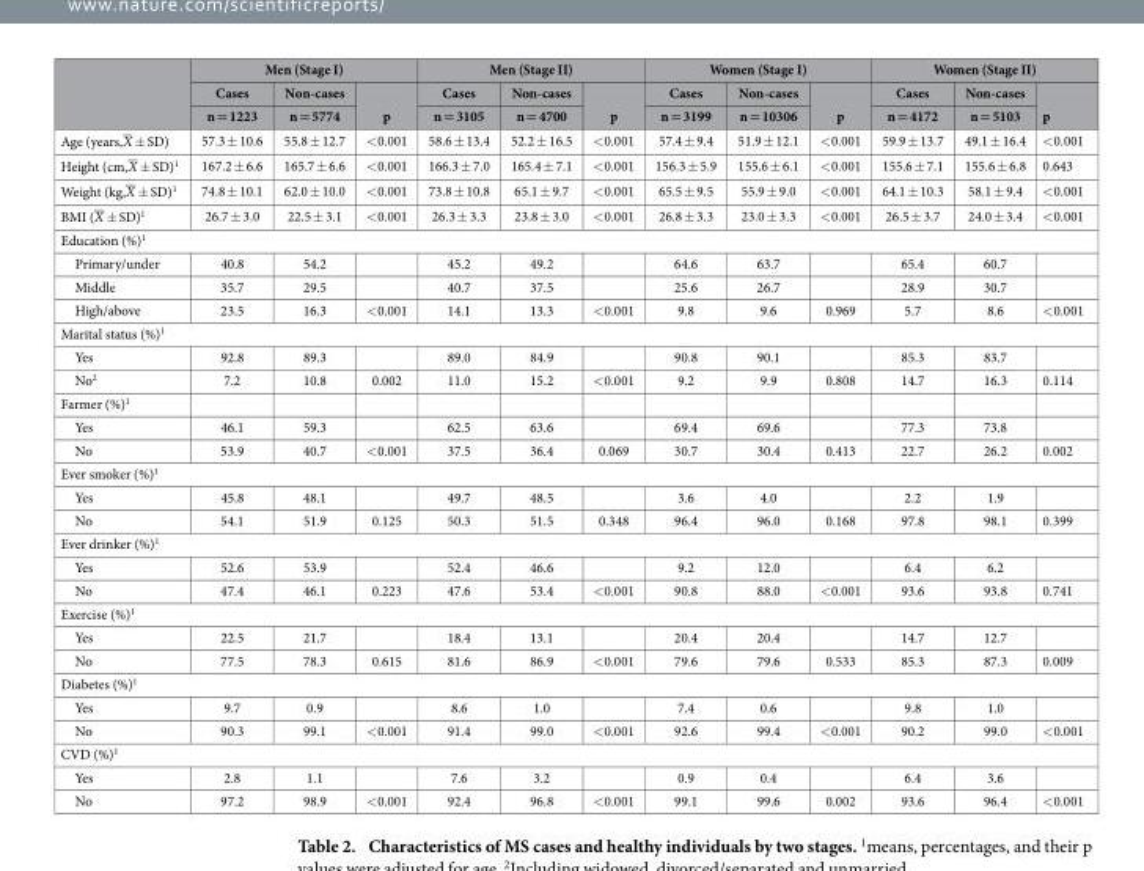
<table><thead><tr><td rowspan="3"></td><td colspan="3">Men (Stage I)</td><td colspan="3">Men (Stage II)</td><td colspan="3">Women (Stage I)</td><td colspan="3">Women (Stage II)</td></tr><tr><td rowspan="2">Cases n = 1223</td><td rowspan="2">Non-cases n = 5774</td><td rowspan="2">p</td><td rowspan="2">Cases n = 3105</td><td rowspan="2">Non-cases n = 4700</td><td rowspan="2">p</td><td rowspan="2">Cases n = 3199</td><td rowspan="2">Non-cases n = 10306</td><td rowspan="2">p</td><td rowspan="2">Cases n = 4172</td><td rowspan="2">Non-cases n = 5103</td><td rowspan="2">p</td></tr><tr></tr></thead><tbody><tr><td>Age (years,X ± SD)</td><td>57.3 ± 10.6</td><td>55.8 ± 12.7</td><td>&lt; 0.001</td><td>58.6 ± 13.4</td><td>52.2 ± 16.5</td><td>&lt; 0.001</td><td>57.4 ± 9.4</td><td>51.9 ± 12.1</td><td>&lt; 0.001</td><td>59.9 ± 13.7</td><td>49.1 ± 16.4</td><td>&lt; 0.001</td></tr><tr><td>Height (cm,X ± SD)1</td><td>167.2 ± 6.6</td><td>165.7 ± 6.6</td><td>&lt; 0.001</td><td>166.3 ± 7.0</td><td>165.4 ± 7.1</td><td>&lt; 0.001</td><td>156.3 ± 5.9</td><td>155.6 ± 6.1</td><td>&lt; 0.001</td><td>155.6 ± 7.1</td><td>155.6 ± 6.8</td><td>0.643</td></tr><tr><td>Weight (kg,X ± SD)1</td><td>74.8 ± 10.1</td><td>62.0 ± 10.0</td><td>&lt; 0.001</td><td>73.8 ± 10.8</td><td>65.1 ± 9.7</td><td>&lt; 0.001</td><td>65.5 ± 9.5</td><td>55.9 ± 9.0</td><td>&lt; 0.001</td><td>64.1 ± 10.3</td><td>58.1 ± 9.4</td><td>&lt; 0.001</td></tr><tr><td>BMI (X ± SD)1</td><td>26.7 ± 3.0</td><td>22.5 ± 3.1</td><td>&lt; 0.001</td><td>26.3 ± 3.3</td><td>23.8 ± 3.0</td><td>&lt; 0.001</td><td>26.8 ± 3.3</td><td>23.0 ± 3.3</td><td>&lt; 0.001</td><td>26.5 ± 3.7</td><td>24.0 ± 3.4</td><td>&lt; 0.001</td></tr><tr><td colspan="13">Education (%)<sup>1</sup></td></tr><tr><td>Primary/under</td><td>40.8</td><td>54.2</td><td></td><td>45.2</td><td>49.2</td><td></td><td>64.6</td><td>63.7</td><td></td><td>65.4</td><td>60.7</td><td></td></tr><tr><td>Middle</td><td>35.7</td><td>29.5</td><td></td><td>40.7</td><td>37.5</td><td></td><td>25.6</td><td>26.7</td><td></td><td>28.9</td><td>30.7</td><td></td></tr><tr><td>High/above</td><td>23.5</td><td>16.3</td><td>&lt; 0.001</td><td>14.1</td><td>13.3</td><td>&lt; 0.001</td><td>9.8</td><td>9.6</td><td>0.969</td><td>5.7</td><td>8.6</td><td>&lt; 0.001</td></tr><tr><td colspan="13">Marital status (%)<sup>1</sup></td></tr><tr><td>Yes</td><td>92.8</td><td>89.3</td><td></td><td>89.0</td><td>84.9</td><td></td><td>90.8</td><td>90.1</td><td></td><td>85.3</td><td>83.7</td><td></td></tr><tr><td>No<sup>2</sup></td><td>7.2</td><td>10.8</td><td>0.002</td><td>11.0</td><td>15.2</td><td>&lt; 0.001</td><td>9.2</td><td>9.9</td><td>0.808</td><td>14.7</td><td>16.3</td><td>0.114</td></tr><tr><td colspan="13">Farmer (%)<sup>1</sup></td></tr><tr><td>Yes</td><td>46.1</td><td>59.3</td><td></td><td>62.5</td><td>63.6</td><td></td><td>69.4</td><td>69.6</td><td></td><td>77.3</td><td>73.8</td><td></td></tr><tr><td>No</td><td>53.9</td><td>40.7</td><td>&lt; 0.001</td><td>37.5</td><td>36.4</td><td>0.069</td><td>30.7</td><td>30.4</td><td>0.413</td><td>22.7</td><td>26.2</td><td>0.002</td></tr><tr><td colspan="13">Ever smoker (%)<sup>1</sup></td></tr><tr><td>Yes</td><td>45.8</td><td>48.1</td><td></td><td>49.7</td><td>48.5</td><td></td><td>3.6</td><td>4.0</td><td></td><td>2.2</td><td>1.9</td><td></td></tr><tr><td>No</td><td>54.1</td><td>51.9</td><td>0.125</td><td>50.3</td><td>51.5</td><td>0.348</td><td>96.4</td><td>96.0</td><td>0.168</td><td>97.8</td><td>98.1</td><td>0.399</td></tr><tr><td colspan="13">Ever drinker (%)<sup>1</sup></td></tr><tr><td>Yes</td><td>52.6</td><td>53.9</td><td></td><td>52.4</td><td>46.6</td><td></td><td>9.2</td><td>12.0</td><td></td><td>6.4</td><td>6.2</td><td></td></tr><tr><td>No</td><td>47.4</td><td>46.1</td><td>0.223</td><td>47.6</td><td>53.4</td><td>&lt; 0.001</td><td>90.8</td><td>88.0</td><td>&lt; 0.001</td><td>93.6</td><td>93.8</td><td>0.741</td></tr><tr><td colspan="13">Exercise (%)<sup>1</sup></td></tr><tr><td>Yes</td><td>22.5</td><td>21.7</td><td></td><td>18.4</td><td>13.1</td><td></td><td>20.4</td><td>20.4</td><td></td><td>14.7</td><td>12.7</td><td></td></tr><tr><td>No</td><td>77.5</td><td>78.3</td><td>0.615</td><td>81.6</td><td>86.9</td><td>&lt; 0.001</td><td>79.6</td><td>79.6</td><td>0.533</td><td>85.3</td><td>87.3</td><td>0.009</td></tr><tr><td colspan="13">Diabetes (%)<sup>1</sup></td></tr><tr><td>Yes</td><td>9.7</td><td>0.9</td><td></td><td>8.6</td><td>1.0</td><td></td><td>7.4</td><td>0.6</td><td></td><td>9.8</td><td>1.0</td><td></td></tr><tr><td>No</td><td>90.3</td><td>99.1</td><td>&lt; 0.001</td><td>91.4</td><td>99.0</td><td>&lt; 0.001</td><td>92.6</td><td>99.4</td><td>&lt; 0.001</td><td>90.2</td><td>99.0</td><td>&lt; 0.001</td></tr><tr><td colspan="13">CVD (%)<sup>1</sup></td></tr><tr><td>Yes</td><td>2.8</td><td>1.1</td><td></td><td>7.6</td><td>3.2</td><td></td><td>0.9</td><td>0.4</td><td></td><td>6.4</td><td>3.6</td><td></td></tr><tr><td>No</td><td>97.2</td><td>98.9</td><td>&lt; 0.001</td><td>92.4</td><td>96.8</td><td>&lt; 0.001</td><td>99.1</td><td>99.6</td><td>0.002</td><td>93.6</td><td>96.4</td><td>&lt; 0.001</td></tr></tbody></table>